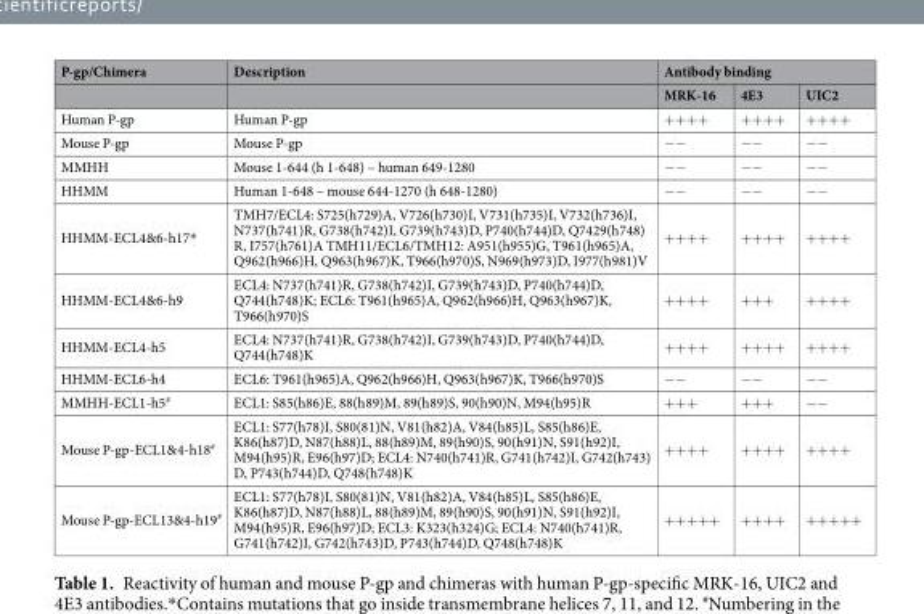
<table><thead><tr><td rowspan="2">P-gp/Chimera</td><td rowspan="2">Description</td><td colspan="3">Antibody binding</td></tr><tr><td>MRK-16</td><td>4E3</td><td>UIC2</td></tr></thead><tbody><tr><td>Human P-gp</td><td>Human P-gp</td><td>++++</td><td>++++</td><td>++++</td></tr><tr><td>Mouse P-gp</td><td>Mouse P-gp</td><td>−−</td><td>−−</td><td>−−</td></tr><tr><td>MMHH</td><td>Mouse 1-644 (h 1-648) – human 649-1280</td><td>−−</td><td>−−</td><td>−−</td></tr><tr><td>HHMM</td><td>Human 1-648 – mouse 644-1270 (h 648-1280)</td><td>−−</td><td>−−</td><td>−−</td></tr><tr><td>HHMM-ECL4&amp;6-h17*</td><td>TMH7/ECL4: S725(h729)A, V726(h730)I, V731(h735)I, V732(h736)I, N737(h741)R, G738(h742)I, G739(h743)D, P740(h744)D, Q7429(h748) R, I757(h761)A TMH11/ECL6/TMH12: A951(h955)G, T961(h965)A, Q962(h966)H, Q963(h967)K, T966(h970)S, N969(h973)D, I977(h981)V</td><td>++++</td><td>++++</td><td>++++</td></tr><tr><td>HHMM-ECL4&amp;6-h9</td><td>ECL4: N737(h741)R, G738(h742)I, G739(h743)D, P740(h744)D, Q744(h748)K; ECL6: T961(h965)A, Q962(h966)H, Q963(h967)K, T966(h970)S</td><td>++++</td><td>+++</td><td>++++</td></tr><tr><td>HHMM-ECL4-h5</td><td>ECL4: N737(h741)R, G738(h742)I, G739(h743)D, P740(h744)D, Q744(h748)K</td><td>++++</td><td>++++</td><td>++++</td></tr><tr><td>HHMM-ECL6-h4</td><td>ECL6: T961(h965)A, Q962(h966)H, Q963(h967)K, T966(h970)S</td><td>−−</td><td>−−</td><td>−−</td></tr><tr><td>MMHH-ECL1-h5<sup>#</sup></td><td>ECL1: S85(h86)E, 88(h89)M, 89(h89)S, 90(h90)N, M94(h95)R</td><td>+++</td><td>+++</td><td>−−</td></tr><tr><td>Mouse P-gp-ECL1&amp;4-h18<sup>#</sup></td><td>ECL1: S77(h78)I, S80(81)N, V81(h82)A, V84(h85)L, S85(h86)E, K86(h87)D, N87(h88)L, 88(h89)M, 89(h90)S, 90(h91)N, S91(h92)I, M94(h95)R, E96(h97)D; ECL4: N740(h741)R, G741(h742)I, G742(h743) D, P743(h744)D, Q748(h748)K</td><td>++++</td><td>++++</td><td>++++</td></tr><tr><td>Mouse P-gp-ECL13&amp;4-h19<sup>#</sup></td><td>ECL1: S77(h78)I, S80(81)N, V81(h82)A, V84(h85)L, S85(h86)E, K86(h87)D, N87(h88)L, 88(h89)M, 89(h90)S, 90(h91)N, S91(h92)I, M94(h95)R, E96(h97)D; ECL3: K323(h324)G; ECL4: N740(h741)R, G741(h742)I, G742(h743)D, P743(h744)D, Q748(h748)K</td><td>+++++</td><td>++++</td><td>+++++</td></tr></tbody></table>